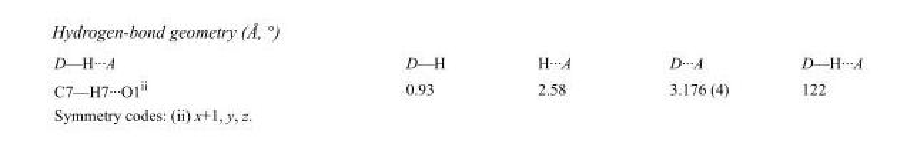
<table><tbody><tr><td>D—H···A</td><td>D—H</td><td>H···A</td><td>D···A</td><td>D—H···A</td></tr><tr><td>C7—H7···O1<sup>ii</sup></td><td>0.93</td><td>2.58</td><td>3.176 (4)</td><td>122</td></tr></tbody></table>